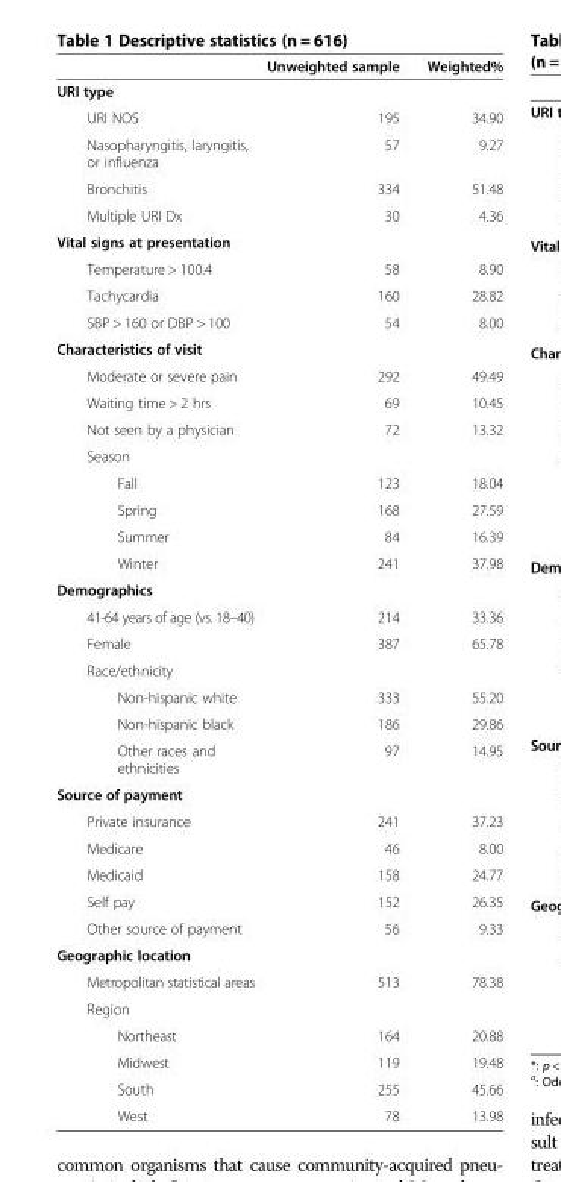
<table><thead><tr><td></td><td>Unweighted sample</td><td>Weighted%</td></tr></thead><tbody><tr><td colspan="3">URI type</td></tr><tr><td>URI NOS</td><td>195</td><td>34.90</td></tr><tr><td>Nasopharyngitis, laryngitis, or influenza</td><td>57</td><td>9.27</td></tr><tr><td>Bronchitis</td><td>334</td><td>51.48</td></tr><tr><td>Multiple URI Dx</td><td>30</td><td>4.36</td></tr><tr><td colspan="3">Vital signs at presentation</td></tr><tr><td>Temperature &gt; 100.4</td><td>58</td><td>8.90</td></tr><tr><td>Tachycardia</td><td>160</td><td>28.82</td></tr><tr><td>SBP &gt; 160 or DBP &gt; 100</td><td>54</td><td>8.00</td></tr><tr><td colspan="3">Characteristics of visit</td></tr><tr><td>Moderate or severe pain</td><td>292</td><td>49.49</td></tr><tr><td>Waiting time &gt; 2 hrs</td><td>69</td><td>10.45</td></tr><tr><td>Not seen by a physician</td><td>72</td><td>13.32</td></tr><tr><td colspan="3">Season</td></tr><tr><td>Fall</td><td>123</td><td>18.04</td></tr><tr><td>Spring</td><td>168</td><td>27.59</td></tr><tr><td>Summer</td><td>84</td><td>16.39</td></tr><tr><td>Winter</td><td>241</td><td>37.98</td></tr><tr><td colspan="3">Demographics</td></tr><tr><td>41-64 years of age (vs. 18–40)</td><td>214</td><td>33.36</td></tr><tr><td>Female</td><td>387</td><td>65.78</td></tr><tr><td colspan="3">Race/ethnicity</td></tr><tr><td>Non-hispanic white</td><td>333</td><td>55.20</td></tr><tr><td>Non-hispanic black</td><td>186</td><td>29.86</td></tr><tr><td>Other races and ethnicities</td><td>97</td><td>14.95</td></tr><tr><td colspan="3">Source of payment</td></tr><tr><td>Private insurance</td><td>241</td><td>37.23</td></tr><tr><td>Medicare</td><td>46</td><td>8.00</td></tr><tr><td>Medicaid</td><td>158</td><td>24.77</td></tr><tr><td>Self pay</td><td>152</td><td>26.35</td></tr><tr><td>Other source of payment</td><td>56</td><td>9.33</td></tr><tr><td colspan="3">Geographic location</td></tr><tr><td>Metropolitan statistical areas</td><td>513</td><td>78.38</td></tr><tr><td colspan="3">Region</td></tr><tr><td>Northeast</td><td>164</td><td>20.88</td></tr><tr><td>Midwest</td><td>119</td><td>19.48</td></tr><tr><td>South</td><td>255</td><td>45.66</td></tr><tr><td>West</td><td>78</td><td>13.98</td></tr></tbody></table>